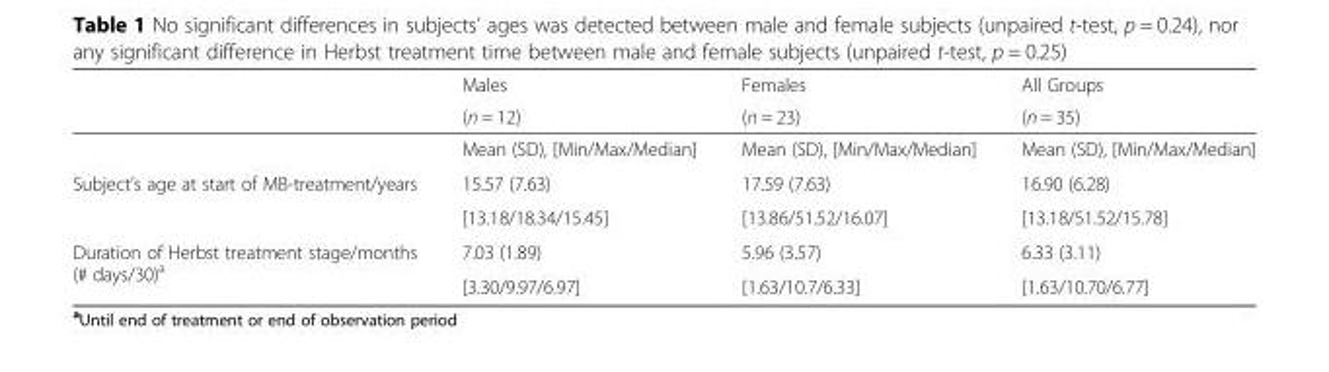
<table><thead><tr><td rowspan="2"></td><td rowspan="2">Males (n = 12)</td><td rowspan="2">Females (n = 23)</td><td rowspan="2">All Groups (n = 35)</td></tr><tr></tr></thead><tbody><tr><td></td><td>Mean (SD), [Min/Max/Median]</td><td>Mean (SD), [Min/Max/Median]</td><td>Mean (SD), [Min/Max/Median]</td></tr><tr><td rowspan="2">Subject’s age at start of MB-treatment/years</td><td>15.57 (7.63)</td><td>17.59 (7.63)</td><td>16.90 (6.28)</td></tr><tr><td>[13.18/18.34/15.45]</td><td>[13.86/51.52/16.07]</td><td>[13.18/51.52/15.78]</td></tr><tr><td rowspan="2">Duration of Herbst treatment stage/months (# days/30)<sup>a</sup></td><td>7.03 (1.89)</td><td>5.96 (3.57)</td><td>6.33 (3.11)</td></tr><tr><td>[3.30/9.97/6.97]</td><td>[1.63/10.7/6.33]</td><td>[1.63/10.70/6.77]</td></tr></tbody></table>